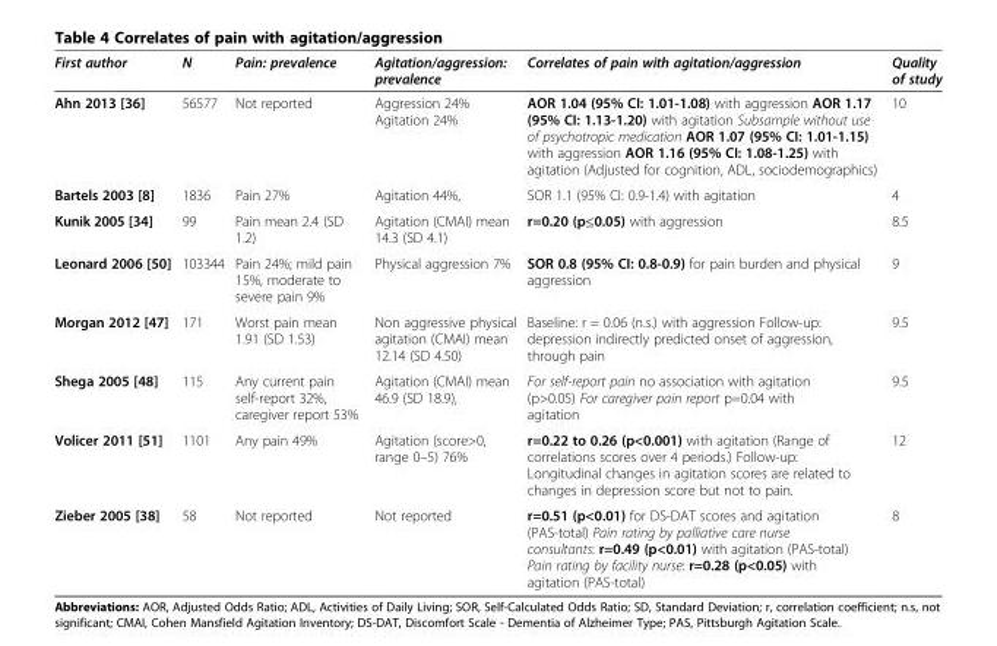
<table><thead><tr><td>First author</td><td>N</td><td>Pain: prevalence</td><td>Agitation/aggression: prevalence</td><td>Correlates of pain with agitation/aggression</td><td>Quality of study</td></tr></thead><tbody><tr><td>Ahn 2013 [36]</td><td>56577</td><td>Not reported</td><td>Aggression 24% Agitation 24%</td><td>AOR 1.04 (95% CI: 1.01-1.08) with aggression AOR 1.17 (95% CI: 1.13-1.20) with agitation Subsample without use of psychotropic medication AOR 1.07 (95% CI: 1.01-1.15) with aggression AOR 1.16 (95% CI: 1.08-1.25) with agitation (Adjusted for cognition, ADL, sociodemographics)</td><td>10</td></tr><tr><td>Bartels 2003 [8]</td><td>1836</td><td>Pain 27%</td><td>Agitation 44%,</td><td>SOR 1.1 (95% CI: 0.9-1.4) with agitation</td><td>4</td></tr><tr><td>Kunik 2005 [34]</td><td>99</td><td>Pain mean 2.4 (SD 1.2)</td><td>Agitation (CMAI) mean 14.3 (SD 4.1)</td><td>r=0.20 (p≤0.05) with aggression</td><td>8.5</td></tr><tr><td>Leonard 2006 [50]</td><td>103344</td><td>Pain 24%; mild pain 15%, moderate to severe pain 9%</td><td>Physical aggression 7%</td><td>SOR 0.8 (95% CI: 0.8-0.9) for pain burden and physical aggression</td><td>9</td></tr><tr><td>Morgan 2012 [47]</td><td>171</td><td>Worst pain mean 1.91 (SD 1.53)</td><td>Non aggressive physical agitation (CMAI) mean 12.14 (SD 4.50)</td><td>Baseline: r = 0.06 (n.s.) with aggression Follow-up: depression indirectly predicted onset of aggression, through pain</td><td>9.5</td></tr><tr><td>Shega 2005 [48]</td><td>115</td><td>Any current pain self-report 32%, caregiver report 53%</td><td>Agitation (CMAI) mean 46.9 (SD 18.9),</td><td>For self-report pain no association with agitation (p&gt;0.05) For caregiver pain report p=0.04 with agitation</td><td>9.5</td></tr><tr><td>Volicer 2011 [51]</td><td>1101</td><td>Any pain 49%</td><td>Agitation (score&gt;0, range 0–5) 76%</td><td>r=0.22 to 0.26 (p&lt;0.001) with agitation (Range of correlations scores over 4 periods.) Follow-up: Longitudinal changes in agitation scores are related to changes in depression score but not to pain.</td><td>12</td></tr><tr><td>Zieber 2005 [38]</td><td>58</td><td>Not reported</td><td>Not reported</td><td>r=0.51 (p&lt;0.01) for DS-DAT scores and agitation (PAS-total) Pain rating by palliative care nurse consultants: r=0.49 (p&lt;0.01) with agitation (PAS-total) Pain rating by facility nurse: r=0.28 (p&lt;0.05) with agitation (PAS-total)</td><td>8</td></tr></tbody></table>